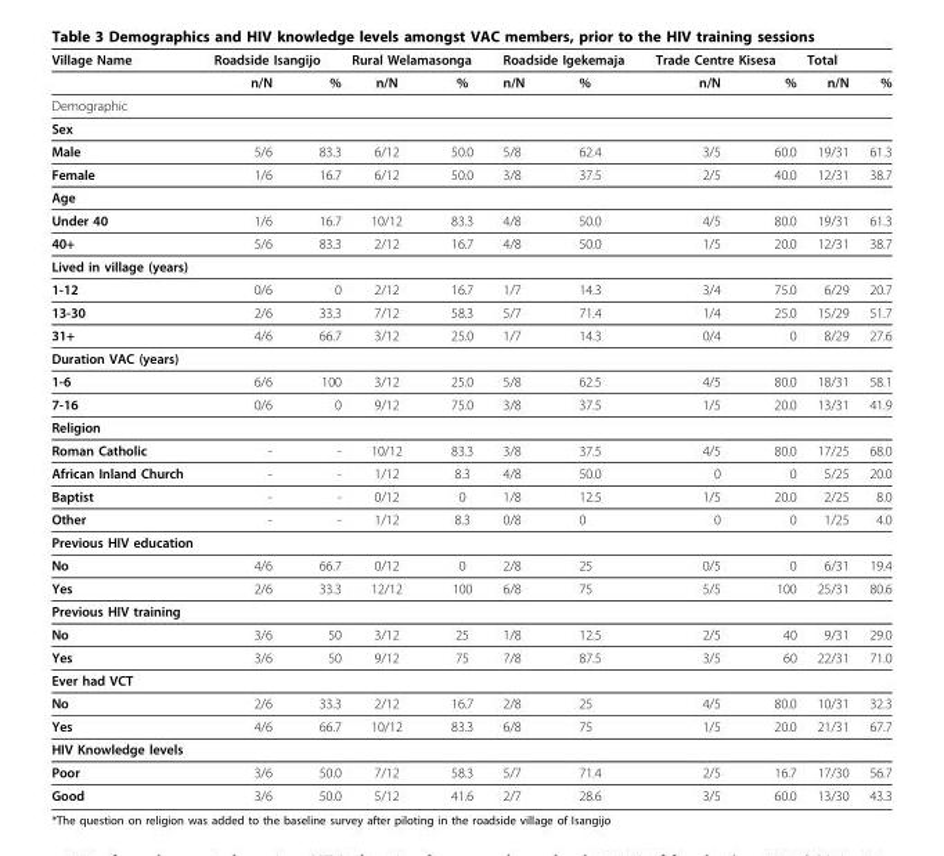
<table><thead><tr><td rowspan="2">Village Name</td><td colspan="2">Roadside Isangijo</td><td colspan="2">Rural Welamasonga</td><td colspan="2">Roadside Igekemaja</td><td colspan="2">Trade Centre Kisesa</td><td colspan="2">Total</td></tr><tr><td>n/N</td><td>%</td><td>n/N</td><td>%</td><td>n/N</td><td>%</td><td>n/N</td><td>%</td><td>n/N</td><td>%</td></tr></thead><tbody><tr><td colspan="11">Demographic</td></tr><tr><td colspan="11">Sex</td></tr><tr><td>Male</td><td>5/6</td><td>83.3</td><td>6/12</td><td>50.0</td><td>5/8</td><td>62.4</td><td>3/5</td><td>60.0</td><td>19/31</td><td>61.3</td></tr><tr><td>Female</td><td>1/6</td><td>16.7</td><td>6/12</td><td>50.0</td><td>3/8</td><td>37.5</td><td>2/5</td><td>40.0</td><td>12/31</td><td>38.7</td></tr><tr><td colspan="11">Age</td></tr><tr><td>Under 40</td><td>1/6</td><td>16.7</td><td>10/12</td><td>83.3</td><td>4/8</td><td>50.0</td><td>4/5</td><td>80.0</td><td>19/31</td><td>61.3</td></tr><tr><td>40+</td><td>5/6</td><td>83.3</td><td>2/12</td><td>16.7</td><td>4/8</td><td>50.0</td><td>1/5</td><td>20.0</td><td>12/31</td><td>38.7</td></tr><tr><td colspan="11">Lived in village (years)</td></tr><tr><td>1-12</td><td>0/6</td><td>0</td><td>2/12</td><td>16.7</td><td>1/7</td><td>14.3</td><td>3/4</td><td>75.0</td><td>6/29</td><td>20.7</td></tr><tr><td>13-30</td><td>2/6</td><td>33.3</td><td>7/12</td><td>58.3</td><td>5/7</td><td>71.4</td><td>1/4</td><td>25.0</td><td>15/29</td><td>51.7</td></tr><tr><td>31+</td><td>4/6</td><td>66.7</td><td>3/12</td><td>25.0</td><td>1/7</td><td>14.3</td><td>0/4</td><td>0</td><td>8/29</td><td>27.6</td></tr><tr><td colspan="11">Duration VAC (years)</td></tr><tr><td>1-6</td><td>6/6</td><td>100</td><td>3/12</td><td>25.0</td><td>5/8</td><td>62.5</td><td>4/5</td><td>80.0</td><td>18/31</td><td>58.1</td></tr><tr><td>7-16</td><td>0/6</td><td>0</td><td>9/12</td><td>75.0</td><td>3/8</td><td>37.5</td><td>1/5</td><td>20.0</td><td>13/31</td><td>41.9</td></tr><tr><td colspan="11">Religion</td></tr><tr><td>Roman Catholic</td><td>-</td><td>-</td><td>10/12</td><td>83.3</td><td>3/8</td><td>37.5</td><td>4/5</td><td>80.0</td><td>17/25</td><td>68.0</td></tr><tr><td>African Inland Church</td><td>-</td><td>-</td><td>1/12</td><td>8.3</td><td>4/8</td><td>50.0</td><td>0</td><td>0</td><td>5/25</td><td>20.0</td></tr><tr><td>Baptist</td><td>-</td><td>-</td><td>0/12</td><td>0</td><td>1/8</td><td>12.5</td><td>1/5</td><td>20.0</td><td>2/25</td><td>8.0</td></tr><tr><td>Other</td><td>-</td><td>-</td><td>1/12</td><td>8.3</td><td>0/8</td><td>0</td><td>0</td><td>0</td><td>1/25</td><td>4.0</td></tr><tr><td colspan="11">Previous HIV education</td></tr><tr><td>No</td><td>4/6</td><td>66.7</td><td>0/12</td><td>0</td><td>2/8</td><td>25</td><td>0/5</td><td>0</td><td>6/31</td><td>19.4</td></tr><tr><td>Yes</td><td>2/6</td><td>33.3</td><td>12/12</td><td>100</td><td>6/8</td><td>75</td><td>5/5</td><td>100</td><td>25/31</td><td>80.6</td></tr><tr><td colspan="11">Previous HIV training</td></tr><tr><td>No</td><td>3/6</td><td>50</td><td>3/12</td><td>25</td><td>1/8</td><td>12.5</td><td>2/5</td><td>40</td><td>9/31</td><td>29.0</td></tr><tr><td>Yes</td><td>3/6</td><td>50</td><td>9/12</td><td>75</td><td>7/8</td><td>87.5</td><td>3/5</td><td>60</td><td>22/31</td><td>71.0</td></tr><tr><td colspan="11">Ever had VCT</td></tr><tr><td>No</td><td>2/6</td><td>33.3</td><td>2/12</td><td>16.7</td><td>2/8</td><td>25</td><td>4/5</td><td>80.0</td><td>10/31</td><td>32.3</td></tr><tr><td>Yes</td><td>4/6</td><td>66.7</td><td>10/12</td><td>83.3</td><td>6/8</td><td>75</td><td>1/5</td><td>20.0</td><td>21/31</td><td>67.7</td></tr><tr><td colspan="11">HIV Knowledge levels</td></tr><tr><td>Poor</td><td>3/6</td><td>50.0</td><td>7/12</td><td>58.3</td><td>5/7</td><td>71.4</td><td>2/5</td><td>16.7</td><td>17/30</td><td>56.7</td></tr><tr><td>Good</td><td>3/6</td><td>50.0</td><td>5/12</td><td>41.6</td><td>2/7</td><td>28.6</td><td>3/5</td><td>60.0</td><td>13/30</td><td>43.3</td></tr></tbody></table>